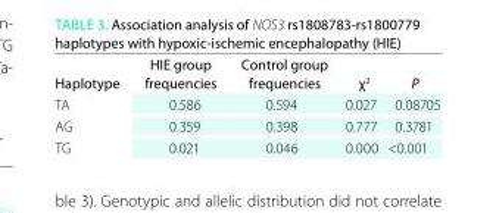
<table><thead><tr><td>haplotype</td><td>hiE group frequencies</td><td>control group frequencies</td><td>χ<sup>2</sup></td><td>P</td></tr></thead><tbody><tr><td>TA</td><td>0.586</td><td>0.594</td><td>0.027</td><td>0.08705</td></tr><tr><td>AG</td><td>0.359</td><td>0.398</td><td>0.777</td><td>0.3781</td></tr><tr><td>TG</td><td>0.021</td><td>0.046</td><td>0.000</td><td>&lt;0.001</td></tr></tbody></table>